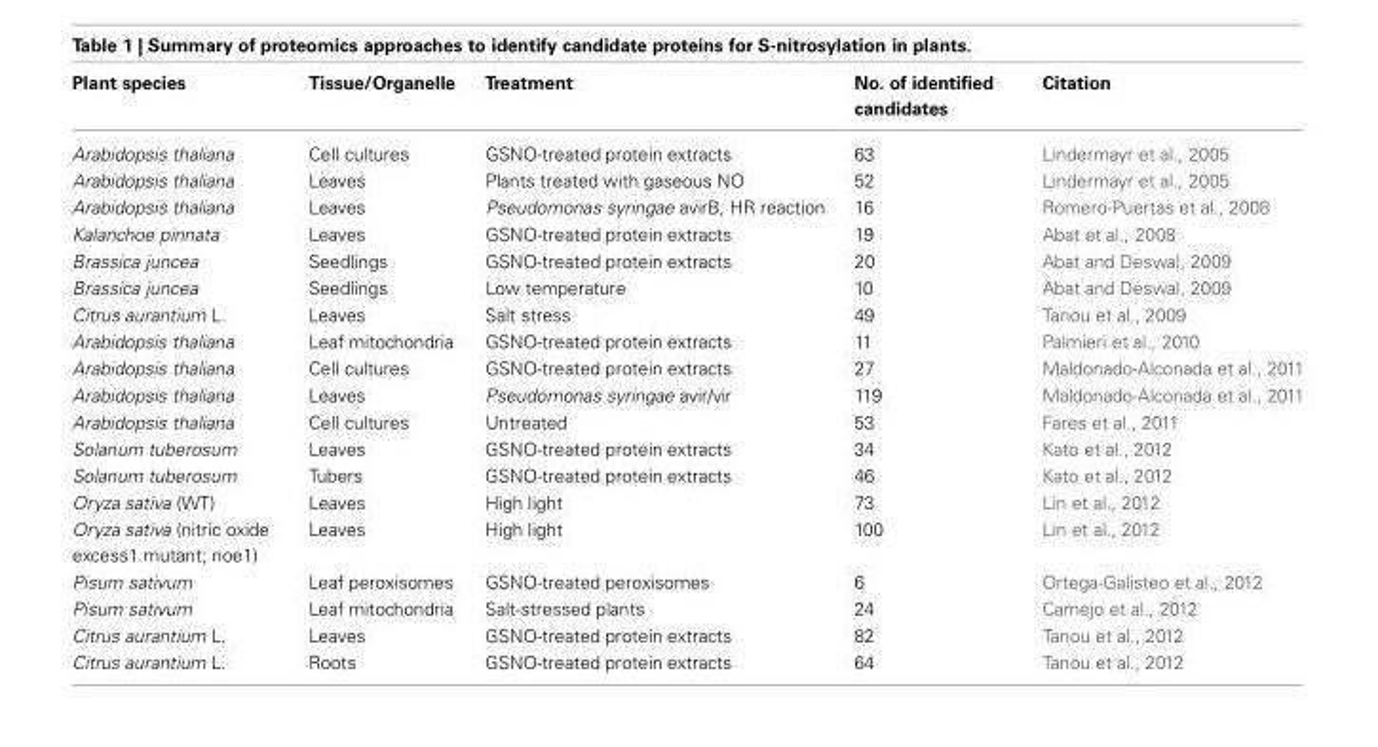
<table><thead><tr><td>Plant species</td><td>Tissue/Organelle</td><td>Treatment</td><td>No. of identified candidates</td><td>Citation</td></tr></thead><tbody><tr><td>Arabidopsis thaliana</td><td>Cell cultures</td><td>GSNO-treated protein extracts</td><td>63</td><td>Lindermayr et al., 2005</td></tr><tr><td>Arabidopsis thaliana</td><td>Leaves</td><td>Plants treated with gaseous NO</td><td>52</td><td>Lindermayr et al., 2005</td></tr><tr><td>Arabidopsis thaliana</td><td>Leaves</td><td>Pseudomonas syringae avirB, HR reaction</td><td>16</td><td>Romero-Puertas et al., 2008</td></tr><tr><td>Kalanchoe pinnata</td><td>Leaves</td><td>GSNO-treated protein extracts</td><td>19</td><td>Abat et al., 2008</td></tr><tr><td>Brassica juncea</td><td>Seedlings</td><td>GSNO-treated protein extracts</td><td>20</td><td>Abat and Deswal, 2009</td></tr><tr><td>Brassica juncea</td><td>Seedlings</td><td>Low temperature</td><td>10</td><td>Abat and Deswal, 2009</td></tr><tr><td>Citrus aurantium L.</td><td>Leaves</td><td>Salt stress</td><td>49</td><td>Tanou et al., 2009</td></tr><tr><td>Arabidopsis thaliana</td><td>Leaf mitochondria</td><td>GSNO-treated protein extracts</td><td>11</td><td>Palmieri et al., 2010</td></tr><tr><td>Arabidopsis thaliana</td><td>Cell cultures</td><td>GSNO-treated protein extracts</td><td>27</td><td>Maldonado-Alconada et al., 2011</td></tr><tr><td>Arabidopsis thaliana</td><td>Leaves</td><td>Pseudomonas syringae avir/vir</td><td>119</td><td>Maldonado-Alconada et al., 2011</td></tr><tr><td>Arabidopsis thaliana</td><td>Cell cultures</td><td>Untreated</td><td>53</td><td>Fares et al., 2011</td></tr><tr><td>Solanum tuberosum</td><td>Leaves</td><td>GSNO-treated protein extracts</td><td>34</td><td>Kato et al., 2012</td></tr><tr><td>Solanum tuberosum</td><td>Tubers</td><td>GSNO-treated protein extracts</td><td>46</td><td>Kato et al., 2012</td></tr><tr><td>Oryza sativa (WT)</td><td>Leaves</td><td>High light</td><td>73</td><td>Lin et al., 2012</td></tr><tr><td>Oryza sativa (nitric oxide excess1 mutant; noe1)</td><td>Leaves</td><td>High light</td><td>100</td><td>Lin et al., 2012</td></tr><tr><td>Pisum sativum</td><td>Leaf peroxisomes</td><td>GSNO-treated peroxisomes</td><td>6</td><td>Ortega-Galisteo et al., 2012</td></tr><tr><td>Pisum sativum</td><td>Leaf mitochondria</td><td>Salt-stressed plants</td><td>24</td><td>Camejo et al., 2012</td></tr><tr><td>Citrus aurantium L.</td><td>Leaves</td><td>GSNO-treated protein extracts</td><td>82</td><td>Tanou et al., 2012</td></tr><tr><td>Citrus aurantium L.</td><td>Roots</td><td>GSNO-treated protein extracts</td><td>64</td><td>Tanou et al., 2012</td></tr></tbody></table>